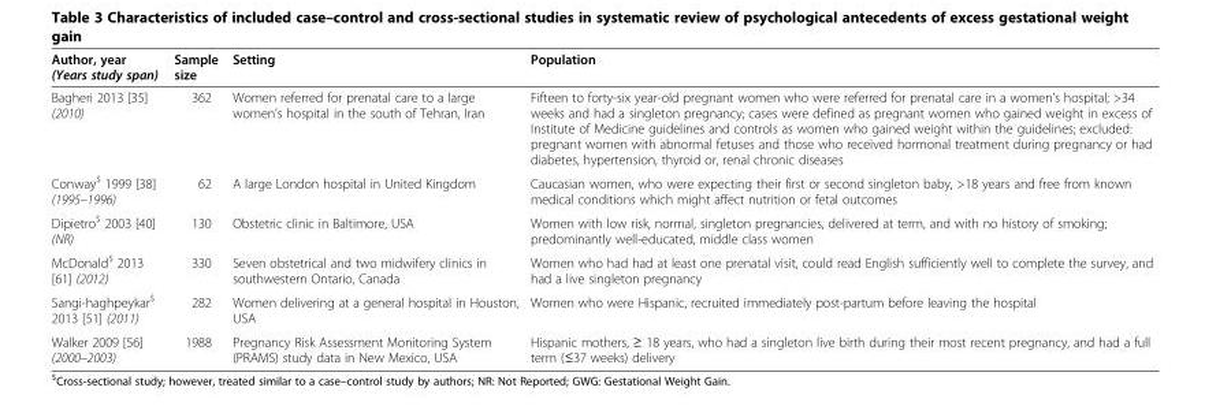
<table><thead><tr><td>Author, year (Years study span)</td><td>Sample size</td><td>Setting</td><td>Population</td></tr></thead><tbody><tr><td>Bagheri 2013 [35] (2010)</td><td>362</td><td>Women referred for prenatal care to a large women’s hospital in the south of Tehran, Iran</td><td>Fifteen to forty-six year-old pregnant women who were referred for prenatal care in a women’s hospital; &gt;34 weeks and had a singleton pregnancy; cases were defined as pregnant women who gained weight in excess of Institute of Medicine guidelines and controls as women who gained weight within the guidelines; excluded: pregnant women with abnormal fetuses and those who received hormonal treatment during pregnancy or had diabetes, hypertension, thyroid or, renal chronic diseases</td></tr><tr><td>Conway<sup>$</sup> 1999 [38] (1995–1996)</td><td>62</td><td>A large London hospital in United Kingdom</td><td>Caucasian women, who were expecting their first or second singleton baby, &gt;18 years and free from known medical conditions which might affect nutrition or fetal outcomes</td></tr><tr><td>Dipietro<sup>$</sup> 2003 [40] (NR)</td><td>130</td><td>Obstetric clinic in Baltimore, USA</td><td>Women with low risk, normal, singleton pregnancies, delivered at term, and with no history of smoking; predominantly well-educated, middle class women</td></tr><tr><td>McDonald<sup>$</sup> 2013 [61] (2012)</td><td>330</td><td>Seven obstetrical and two midwifery clinics in southwestern Ontario, Canada</td><td>Women who had had at least one prenatal visit, could read English sufficiently well to complete the survey, and had a live singleton pregnancy</td></tr><tr><td>Sangi-haghpeykar<sup>$</sup> 2013 [51] (2011)</td><td>282</td><td>Women delivering at a general hospital in Houston, USA</td><td>Women who were Hispanic, recruited immediately post-partum before leaving the hospital</td></tr><tr><td>Walker 2009 [56] (2000–2003)</td><td>1988</td><td>Pregnancy Risk Assessment Monitoring System (PRAMS) study data in New Mexico, USA</td><td>Hispanic mothers, ≥ 18 years, who had a singleton live birth during their most recent pregnancy, and had a full term (≤37 weeks) delivery</td></tr></tbody></table>